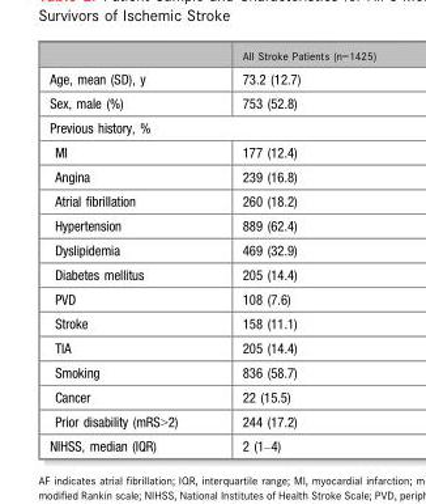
<table><thead><tr><td></td><td>All Stroke Patients (n=1425)</td></tr></thead><tbody><tr><td>Age, mean (SD), y</td><td>73.2 (12.7)</td></tr><tr><td>Sex, male (%)</td><td>753 (52.8)</td></tr><tr><td colspan="2">Previous history, %</td></tr><tr><td>MI</td><td>177 (12.4)</td></tr><tr><td>Angina</td><td>239 (16.8)</td></tr><tr><td>Atrial fibrillation</td><td>260 (18.2)</td></tr><tr><td>Hypertension</td><td>889 (62.4)</td></tr><tr><td>Dyslipidemia</td><td>469 (32.9)</td></tr><tr><td>Diabetes mellitus</td><td>205 (14.4)</td></tr><tr><td>PVD</td><td>108 (7.6)</td></tr><tr><td>Stroke</td><td>158 (11.1)</td></tr><tr><td>TIA</td><td>205 (14.4)</td></tr><tr><td>Smoking</td><td>836 (58.7)</td></tr><tr><td>Cancer</td><td>22 (15.5)</td></tr><tr><td>Prior disability (mRS&gt;2)</td><td>244 (17.2)</td></tr><tr><td>NIHSS, median (IQR)</td><td>2 (1–4)</td></tr></tbody></table>